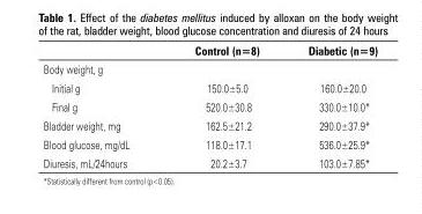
<table><thead><tr><td></td><td>control (n=8)</td><td>Diabetic (n=9)</td></tr></thead><tbody><tr><td colspan="3">Body weight, g</td></tr><tr><td>Initial g</td><td>150.0±5.0</td><td>160.0±20.0</td></tr><tr><td>Final g</td><td>520.0±30.8</td><td>330.0±10.0*</td></tr><tr><td>Bladder weight, mg</td><td>162.5±21.2</td><td>290.0±37.9*</td></tr><tr><td>Blood glucose, mg/dL</td><td>118.0±17.1</td><td>536.0±25.9*</td></tr><tr><td>Diuresis, mL/24hours</td><td>20.2±3.7</td><td>103.0±7.85*</td></tr></tbody></table>